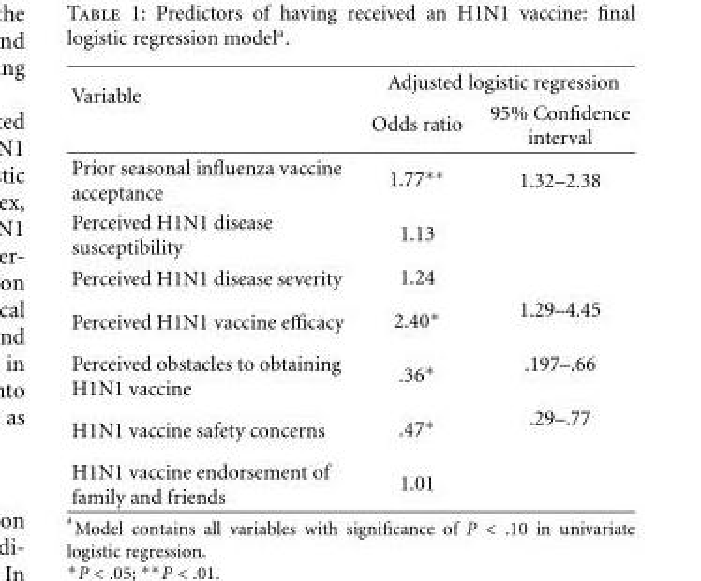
<table><thead><tr><td rowspan="2">Variable</td><td colspan="2">Adjusted logistic regression</td></tr><tr><td>Odds ratio</td><td>95% Confidence interval</td></tr></thead><tbody><tr><td>Prior seasonal influenza vaccine acceptance</td><td>1.77∗∗</td><td>1.32–2.38</td></tr><tr><td>Perceived H1N1 disease susceptibility</td><td>1.13</td><td></td></tr><tr><td>Perceived H1N1 disease severity</td><td>1.24</td><td></td></tr><tr><td>Perceived H1N1 vaccine efficacy</td><td>2.40∗</td><td>1.29–4.45</td></tr><tr><td>Perceived obstacles to obtaining H1N1 vaccine</td><td>.36∗</td><td>.197–.66</td></tr><tr><td>H1N1 vaccine safety concerns</td><td>.47∗</td><td>.29–.77</td></tr><tr><td>H1N1 vaccine endorsement of family and friends</td><td>1.01</td><td></td></tr></tbody></table>